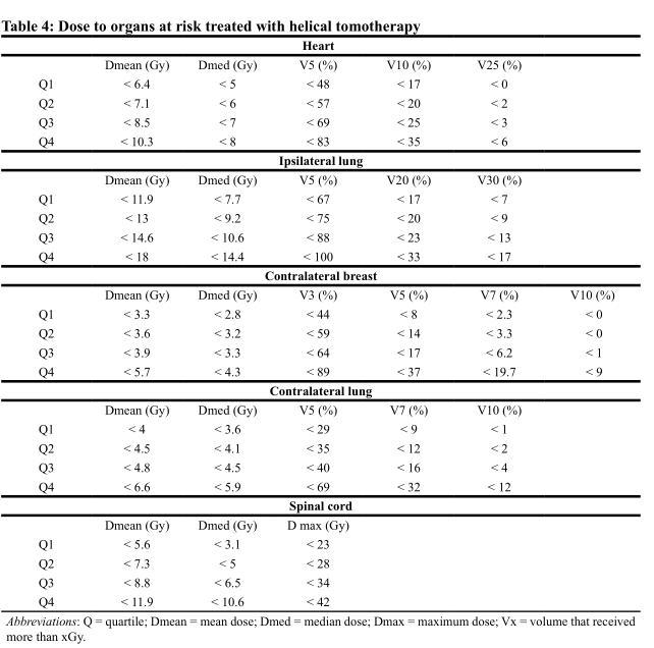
<table><tbody><tr><td colspan="7">Heart</td></tr><tr><td></td><td>Dmean (Gy)</td><td>Dmed (Gy)</td><td>V5 (%)</td><td>V10 (%)</td><td>V25 (%)</td><td></td></tr><tr><td>Q1</td><td>&lt; 6.4</td><td>&lt; 5</td><td>&lt; 48</td><td>&lt; 17</td><td>&lt; 0</td><td></td></tr><tr><td>Q2</td><td>&lt; 7.1</td><td>&lt; 6</td><td>&lt; 57</td><td>&lt; 20</td><td>&lt; 2</td><td></td></tr><tr><td>Q3</td><td>&lt; 8.5</td><td>&lt; 7</td><td>&lt; 69</td><td>&lt; 25</td><td>&lt; 3</td><td></td></tr><tr><td>Q4</td><td>&lt; 10.3</td><td>&lt; 8</td><td>&lt; 83</td><td>&lt; 35</td><td>&lt; 6</td><td></td></tr><tr><td colspan="7">Ipsilateral lung</td></tr><tr><td></td><td>Dmean (Gy)</td><td>Dmed (Gy)</td><td>V5 (%)</td><td>V20 (%)</td><td>V30 (%)</td><td></td></tr><tr><td>Q1</td><td>&lt; 11.9</td><td>&lt; 7.7</td><td>&lt; 67</td><td>&lt; 17</td><td>&lt; 7</td><td></td></tr><tr><td>Q2</td><td>&lt; 13</td><td>&lt; 9.2</td><td>&lt; 75</td><td>&lt; 20</td><td>&lt; 9</td><td></td></tr><tr><td>Q3</td><td>&lt; 14.6</td><td>&lt; 10.6</td><td>&lt; 88</td><td>&lt; 23</td><td>&lt; 13</td><td></td></tr><tr><td>Q4</td><td>&lt; 18</td><td>&lt; 14.4</td><td>&lt; 100</td><td>&lt; 33</td><td>&lt; 17</td><td></td></tr><tr><td colspan="7">Contralateral breast</td></tr><tr><td></td><td>Dmean (Gy)</td><td>Dmed (Gy)</td><td>V3 (%)</td><td>V5 (%)</td><td>V7 (%)</td><td>V10 (%)</td></tr><tr><td>Q1</td><td>&lt; 3.3</td><td>&lt; 2.8</td><td>&lt; 44</td><td>&lt; 8</td><td>&lt; 2.3</td><td>&lt; 0</td></tr><tr><td>Q2</td><td>&lt; 3.6</td><td>&lt; 3.2</td><td>&lt; 59</td><td>&lt; 14</td><td>&lt; 3.3</td><td>&lt; 0</td></tr><tr><td>Q3</td><td>&lt; 3.9</td><td>&lt; 3.3</td><td>&lt; 64</td><td>&lt; 17</td><td>&lt; 6.2</td><td>&lt; 1</td></tr><tr><td>Q4</td><td>&lt; 5.7</td><td>&lt; 4.3</td><td>&lt; 89</td><td>&lt; 37</td><td>&lt; 19.7</td><td>&lt; 9</td></tr><tr><td colspan="7">Contralateral lung</td></tr><tr><td></td><td>Dmean (Gy)</td><td>Dmed (Gy)</td><td>V5 (%)</td><td>V7 (%)</td><td>V10 (%)</td><td></td></tr><tr><td>Q1</td><td>&lt; 4</td><td>&lt; 3.6</td><td>&lt; 29</td><td>&lt; 9</td><td>&lt; 1</td><td></td></tr><tr><td>Q2</td><td>&lt; 4.5</td><td>&lt; 4.1</td><td>&lt; 35</td><td>&lt; 12</td><td>&lt; 2</td><td></td></tr><tr><td>Q3</td><td>&lt; 4.8</td><td>&lt; 4.5</td><td>&lt; 40</td><td>&lt; 16</td><td>&lt; 4</td><td></td></tr><tr><td>Q4</td><td>&lt; 6.6</td><td>&lt; 5.9</td><td>&lt; 69</td><td>&lt; 32</td><td>&lt; 12</td><td></td></tr><tr><td colspan="7">Spinal cord</td></tr><tr><td></td><td>Dmean (Gy)</td><td>Dmed (Gy)</td><td>D max (Gy)</td><td></td><td></td><td></td></tr><tr><td>Q1</td><td>&lt; 5.6</td><td>&lt; 3.1</td><td>&lt; 23</td><td></td><td></td><td></td></tr><tr><td>Q2</td><td>&lt; 7.3</td><td>&lt; 5</td><td>&lt; 28</td><td></td><td></td><td></td></tr><tr><td>Q3</td><td>&lt; 8.8</td><td>&lt; 6.5</td><td>&lt; 34</td><td></td><td></td><td></td></tr><tr><td>Q4</td><td>&lt; 11.9</td><td>&lt; 10.6</td><td>&lt; 42</td><td></td><td></td><td></td></tr></tbody></table>